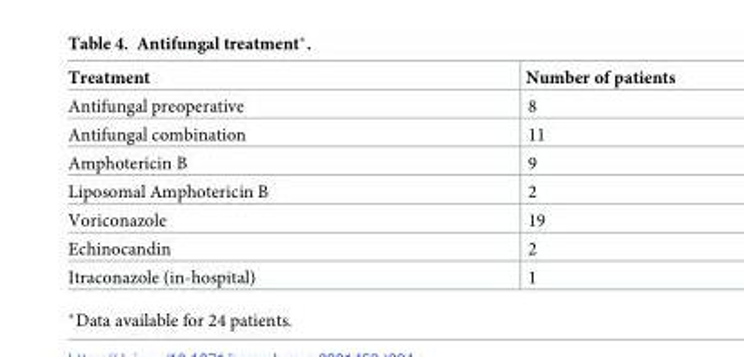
<table><thead><tr><td>Treatment</td><td>Number of patients</td></tr></thead><tbody><tr><td>Antifungal preoperative</td><td>8</td></tr><tr><td>Antifungal combination</td><td>11</td></tr><tr><td>Amphotericin B</td><td>9</td></tr><tr><td>Liposomal Amphotericin B</td><td>2</td></tr><tr><td>Voriconazole</td><td>19</td></tr><tr><td>Echinocandin</td><td>2</td></tr><tr><td>Itraconazole (in-hospital)</td><td>1</td></tr></tbody></table>